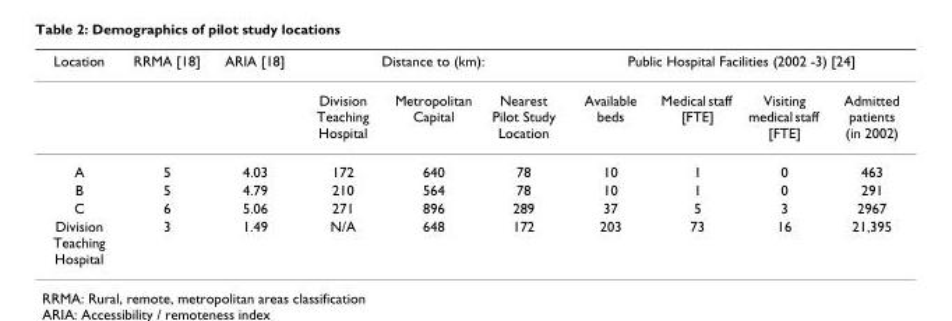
<table><thead><tr><td rowspan="2">Location</td><td rowspan="2">RRMA [18]</td><td rowspan="2">ARIA [18]</td><td colspan="3">Distance to (km):</td><td colspan="4">Public Hospital Facilities (2002 -3) [24]</td></tr><tr><td>Division Teaching Hospital</td><td>Metropolitan Capital</td><td>Nearest Pilot Study Location</td><td>Available beds</td><td>Medical staff [FTE]</td><td>Visiting medical staff [FTE]</td><td>Admitted patients (in 2002)</td></tr></thead><tbody><tr><td>A</td><td>5</td><td>4.03</td><td>172</td><td>640</td><td>78</td><td>10</td><td>1</td><td>0</td><td>463</td></tr><tr><td>B</td><td>5</td><td>4.79</td><td>210</td><td>564</td><td>78</td><td>10</td><td>1</td><td>0</td><td>291</td></tr><tr><td>C</td><td>6</td><td>5.06</td><td>271</td><td>896</td><td>289</td><td>37</td><td>5</td><td>3</td><td>2967</td></tr><tr><td>Division Teaching Hospital</td><td>3</td><td>1.49</td><td>N/A</td><td>648</td><td>172</td><td>203</td><td>73</td><td>16</td><td>21,395</td></tr></tbody></table>